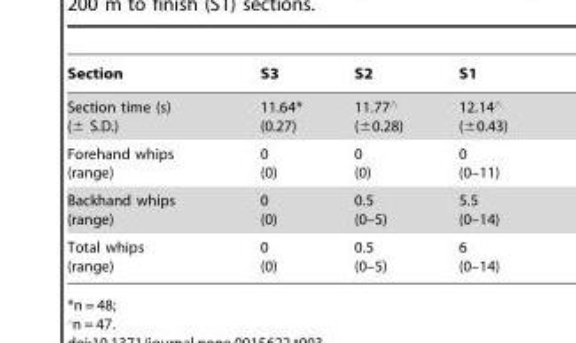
<table><thead><tr><td>Section</td><td>S3</td><td>S2</td><td>S1</td></tr></thead><tbody><tr><td>Section time (s) (± S.D.)</td><td>11.64* (0.27)</td><td>11.77‘ (60.28)</td><td>12.14‘ (60.43)</td></tr><tr><td>Forehand whips (range)</td><td>0 (0)</td><td>0 (0)</td><td>0 (0–11)</td></tr><tr><td>Backhand whips (range)</td><td>0 (0)</td><td>0.5 (0–5)</td><td>5.5 (0–14)</td></tr><tr><td>Total whips (range)</td><td>0 (0)</td><td>0.5 (0–5)</td><td>6 (0–14)</td></tr></tbody></table>